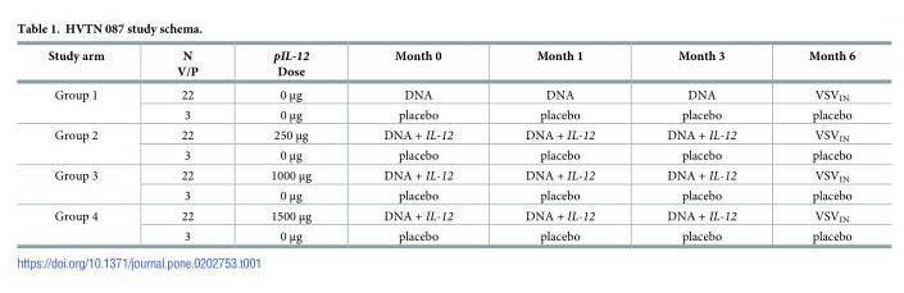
<table><thead><tr><td>Study arm</td><td>N V/P</td><td>pIL-12 Dose</td><td>Month 0</td><td>Month 1</td><td>Month 3</td><td>Month 6</td></tr></thead><tbody><tr><td rowspan="2">Group 1</td><td>22</td><td>0 μg</td><td>DNA</td><td>DNA</td><td>DNA</td><td>VSV<sub>IN</sub></td></tr><tr><td>3</td><td>0 μg</td><td>placebo</td><td>placebo</td><td>placebo</td><td>placebo</td></tr><tr><td rowspan="2">Group 2</td><td>22</td><td>250 μg</td><td>DNA + IL-12</td><td>DNA + IL-12</td><td>DNA + IL-12</td><td>VSV<sub>IN</sub></td></tr><tr><td>3</td><td>0 μg</td><td>placebo</td><td>placebo</td><td>placebo</td><td>placebo</td></tr><tr><td rowspan="2">Group 3</td><td>22</td><td>1000 μg</td><td>DNA + IL-12</td><td>DNA + IL-12</td><td>DNA + IL-12</td><td>VSV<sub>IN</sub></td></tr><tr><td>3</td><td>0 μg</td><td>placebo</td><td>placebo</td><td>placebo</td><td>placebo</td></tr><tr><td rowspan="2">Group 4</td><td>22</td><td>1500 μg</td><td>DNA + IL-12</td><td>DNA + IL-12</td><td>DNA + IL-12</td><td>VSV<sub>IN</sub></td></tr><tr><td>3</td><td>0 μg</td><td>placebo</td><td>placebo</td><td>placebo</td><td>placebo</td></tr></tbody></table>